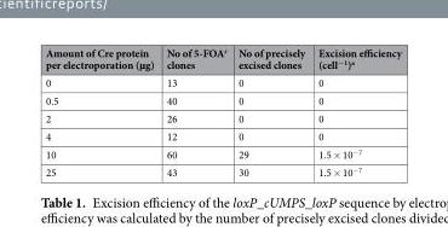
<table><thead><tr><td>Amount of Cre protein per electroporation (µg)</td><td>No of 5-FOA<sup>r</sup> clones</td><td>No of precisely excised clones</td><td>Excision efficiency (cell<sup>−1</sup>)<sup>a</sup></td></tr></thead><tbody><tr><td>0</td><td>13</td><td>0</td><td>0</td></tr><tr><td>0.5</td><td>40</td><td>0</td><td>0</td></tr><tr><td>2</td><td>26</td><td>0</td><td>0</td></tr><tr><td>4</td><td>12</td><td>0</td><td>0</td></tr><tr><td>10</td><td>60</td><td>29</td><td>1.5 × 10<sup>−7</sup></td></tr><tr><td>25</td><td>43</td><td>30</td><td>1.5 × 10<sup>−7</sup></td></tr></tbody></table>